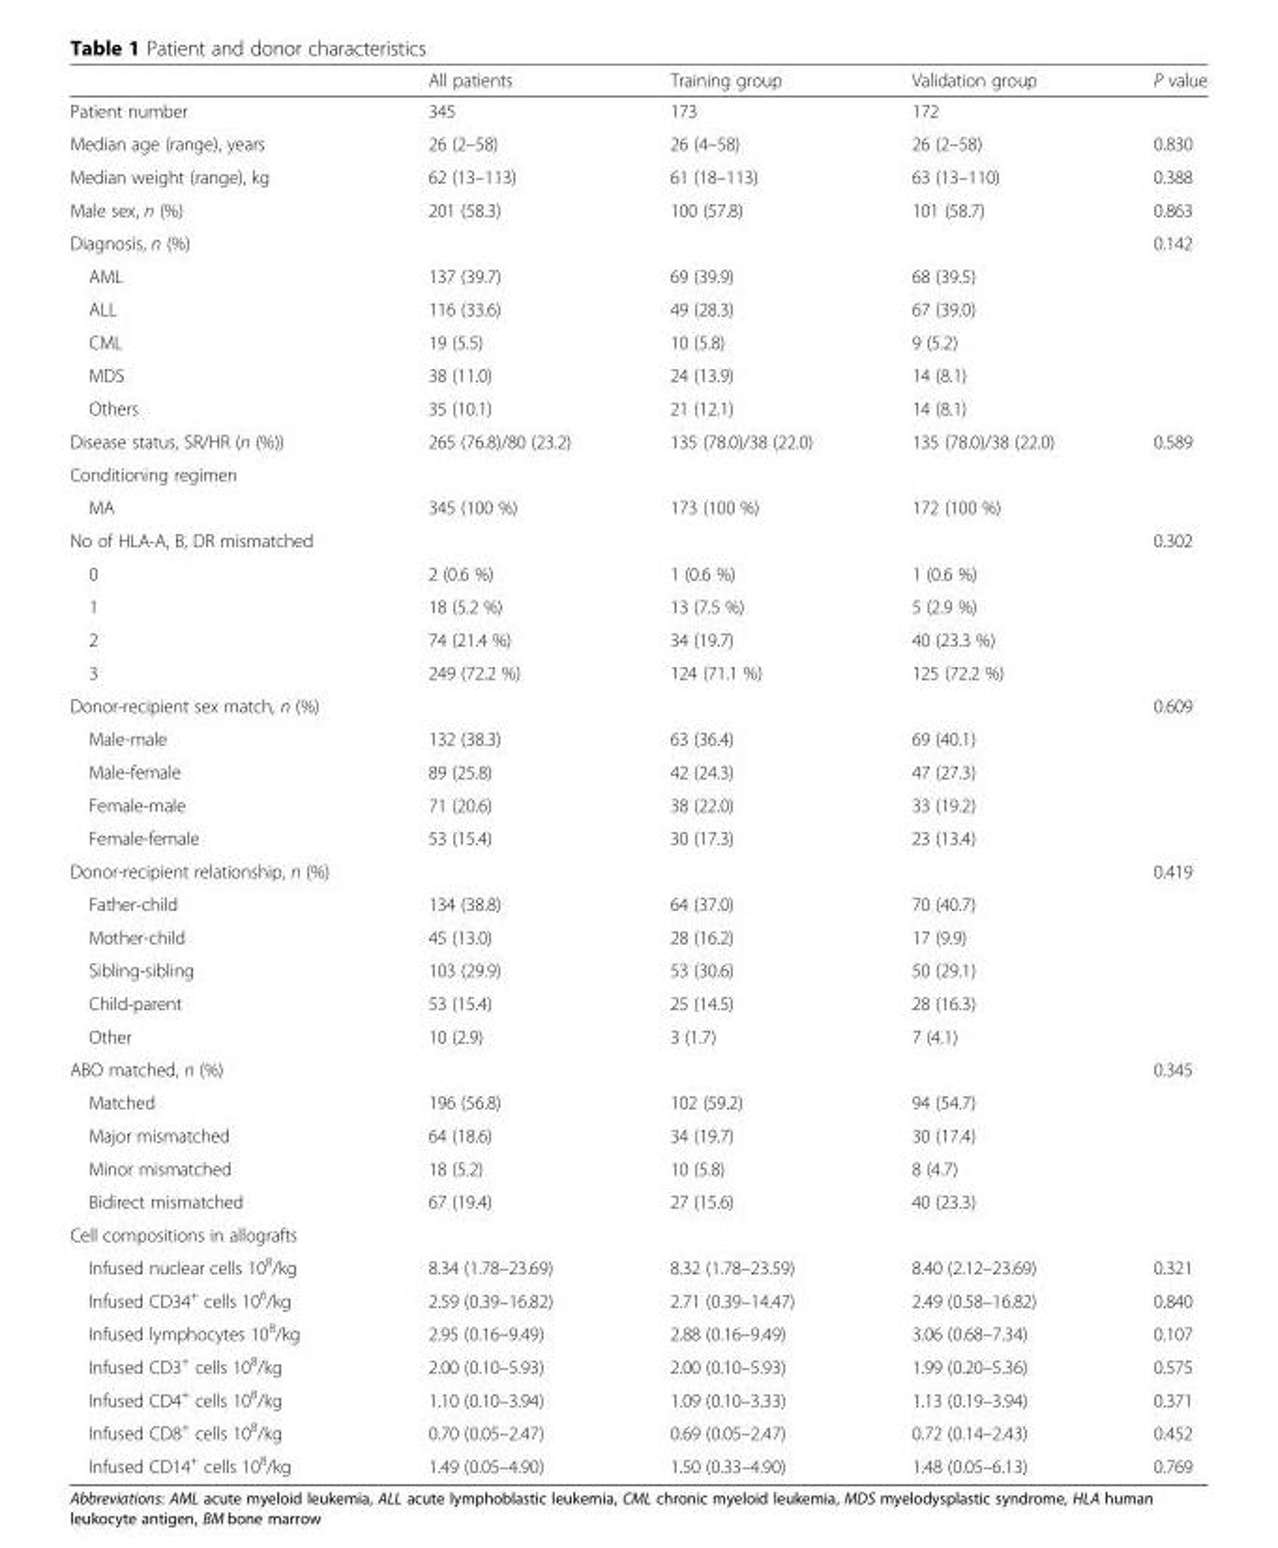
<table><thead><tr><td></td><td>All patients</td><td>Training group</td><td>Validation group</td><td>P value</td></tr></thead><tbody><tr><td>Patient number</td><td>345</td><td>173</td><td>172</td><td></td></tr><tr><td>Median age (range), years</td><td>26 (2–58)</td><td>26 (4–58)</td><td>26 (2–58)</td><td>0.830</td></tr><tr><td>Median weight (range), kg</td><td>62 (13–113)</td><td>61 (18–113)</td><td>63 (13–110)</td><td>0.388</td></tr><tr><td>Male sex, n (%)</td><td>201 (58.3)</td><td>100 (57.8)</td><td>101 (58.7)</td><td>0.863</td></tr><tr><td>Diagnosis, n (%)</td><td></td><td></td><td></td><td>0.142</td></tr><tr><td>AML</td><td>137 (39.7)</td><td>69 (39.9)</td><td>68 (39.5)</td><td></td></tr><tr><td>ALL</td><td>116 (33.6)</td><td>49 (28.3)</td><td>67 (39.0)</td><td></td></tr><tr><td>CML</td><td>19 (5.5)</td><td>10 (5.8)</td><td>9 (5.2)</td><td></td></tr><tr><td>MDS</td><td>38 (11.0)</td><td>24 (13.9)</td><td>14 (8.1)</td><td></td></tr><tr><td>Others</td><td>35 (10.1)</td><td>21 (12.1)</td><td>14 (8.1)</td><td></td></tr><tr><td>Disease status, SR/HR (n (%))</td><td>265 (76.8)/80 (23.2)</td><td>135 (78.0)/38 (22.0)</td><td>135 (78.0)/38 (22.0)</td><td>0.589</td></tr><tr><td colspan="5">Conditioning regimen</td></tr><tr><td>MA</td><td>345 (100 %)</td><td>173 (100 %)</td><td>172 (100 %)</td><td></td></tr><tr><td>No of HLA-A, B, DR mismatched</td><td></td><td></td><td></td><td>0.302</td></tr><tr><td>0</td><td>2 (0.6 %)</td><td>1 (0.6 %)</td><td>1 (0.6 %)</td><td></td></tr><tr><td>1</td><td>18 (5.2 %)</td><td>13 (7.5 %)</td><td>5 (2.9 %)</td><td></td></tr><tr><td>2</td><td>74 (21.4 %)</td><td>34 (19.7)</td><td>40 (23.3 %)</td><td></td></tr><tr><td>3</td><td>249 (72.2 %)</td><td>124 (71.1 %)</td><td>125 (72.2 %)</td><td></td></tr><tr><td>Donor-recipient sex match, n (%)</td><td></td><td></td><td></td><td>0.609</td></tr><tr><td>Male-male</td><td>132 (38.3)</td><td>63 (36.4)</td><td>69 (40.1)</td><td></td></tr><tr><td>Male-female</td><td>89 (25.8)</td><td>42 (24.3)</td><td>47 (27.3)</td><td></td></tr><tr><td>Female-male</td><td>71 (20.6)</td><td>38 (22.0)</td><td>33 (19.2)</td><td></td></tr><tr><td>Female-female</td><td>53 (15.4)</td><td>30 (17.3)</td><td>23 (13.4)</td><td></td></tr><tr><td>Donor-recipient relationship, n (%)</td><td></td><td></td><td></td><td>0.419</td></tr><tr><td>Father-child</td><td>134 (38.8)</td><td>64 (37.0)</td><td>70 (40.7)</td><td></td></tr><tr><td>Mother-child</td><td>45 (13.0)</td><td>28 (16.2)</td><td>17 (9.9)</td><td></td></tr><tr><td>Sibling-sibling</td><td>103 (29.9)</td><td>53 (30.6)</td><td>50 (29.1)</td><td></td></tr><tr><td>Child-parent</td><td>53 (15.4)</td><td>25 (14.5)</td><td>28 (16.3)</td><td></td></tr><tr><td>Other</td><td>10 (2.9)</td><td>3 (1.7)</td><td>7 (4.1)</td><td></td></tr><tr><td>ABO matched, n (%)</td><td></td><td></td><td></td><td>0.345</td></tr><tr><td>Matched</td><td>196 (56.8)</td><td>102 (59.2)</td><td>94 (54.7)</td><td></td></tr><tr><td>Major mismatched</td><td>64 (18.6)</td><td>34 (19.7)</td><td>30 (17.4)</td><td></td></tr><tr><td>Minor mismatched</td><td>18 (5.2)</td><td>10 (5.8)</td><td>8 (4.7)</td><td></td></tr><tr><td>Bidirect mismatched</td><td>67 (19.4)</td><td>27 (15.6)</td><td>40 (23.3)</td><td></td></tr><tr><td colspan="5">Cell compositions in allografts</td></tr><tr><td>Infused nuclear cells 10<sup>8</sup>/kg</td><td>8.34 (1.78–23.69)</td><td>8.32 (1.78–23.59)</td><td>8.40 (2.12–23.69)</td><td>0.321</td></tr><tr><td>Infused CD34<sup>+</sup> cells 10<sup>6</sup>/kg</td><td>2.59 (0.39–16.82)</td><td>2.71 (0.39–14.47)</td><td>2.49 (0.58–16.82)</td><td>0.840</td></tr><tr><td>Infused lymphocytes 10<sup>8</sup>/kg</td><td>2.95 (0.16–9.49)</td><td>2.88 (0.16–9.49)</td><td>3.06 (0.68–7.34)</td><td>0.107</td></tr><tr><td>Infused CD3<sup>+</sup> cells 10<sup>8</sup>/kg</td><td>2.00 (0.10–5.93)</td><td>2.00 (0.10–5.93)</td><td>1.99 (0.20–5.36)</td><td>0.575</td></tr><tr><td>Infused CD4<sup>+</sup> cells 10<sup>8</sup>/kg</td><td>1.10 (0.10–3.94)</td><td>1.09 (0.10–3.33)</td><td>1.13 (0.19–3.94)</td><td>0.371</td></tr><tr><td>Infused CD8<sup>+</sup> cells 10<sup>8</sup>/kg</td><td>0.70 (0.05–2.47)</td><td>0.69 (0.05–2.47)</td><td>0.72 (0.14–2.43)</td><td>0.452</td></tr><tr><td>Infused CD14<sup>+</sup> cells 10<sup>8</sup>/kg</td><td>1.49 (0.05–4.90)</td><td>1.50 (0.33–4.90)</td><td>1.48 (0.05–6.13)</td><td>0.769</td></tr></tbody></table>